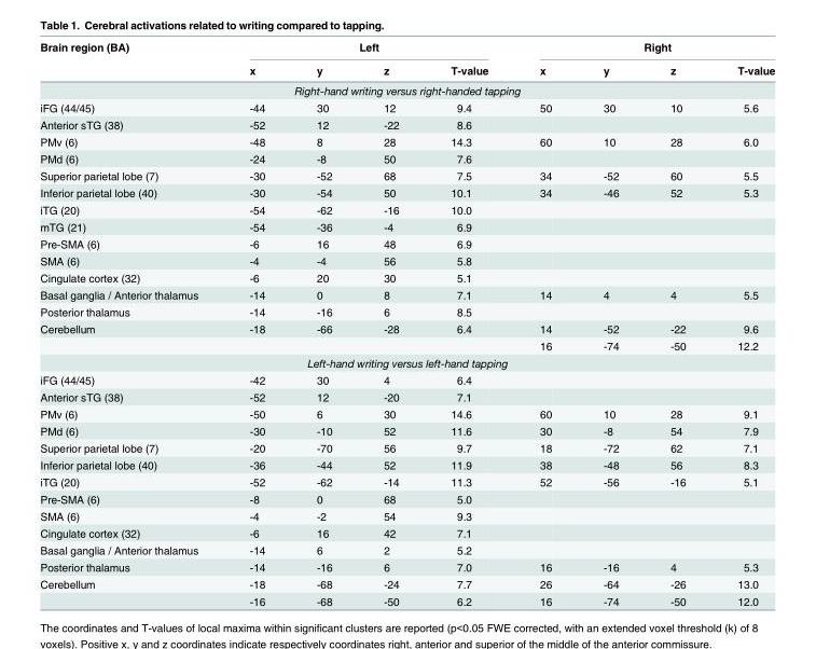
<table><thead><tr><td rowspan="2">Brain region (BA)</td><td colspan="4">Left</td><td colspan="4">Right</td></tr><tr><td>x</td><td>y</td><td>z</td><td>T-value</td><td>x</td><td>y</td><td>z</td><td>T-value</td></tr></thead><tbody><tr><td colspan="9">Right-hand writing versus right-handed tapping</td></tr><tr><td>iFG (44/45)</td><td>-44</td><td>30</td><td>12</td><td>9.4</td><td>50</td><td>30</td><td>10</td><td>5.6</td></tr><tr><td>Anterior sTG (38)</td><td>-52</td><td>12</td><td>-22</td><td>8.6</td><td></td><td></td><td></td><td></td></tr><tr><td>PMv (6)</td><td>-48</td><td>8</td><td>28</td><td>14.3</td><td>60</td><td>10</td><td>28</td><td>6.0</td></tr><tr><td>PMd (6)</td><td>-24</td><td>-8</td><td>50</td><td>7.6</td><td></td><td></td><td></td><td></td></tr><tr><td>Superior parietal lobe (7)</td><td>-30</td><td>-52</td><td>68</td><td>7.5</td><td>34</td><td>-52</td><td>60</td><td>5.5</td></tr><tr><td>Inferior parietal lobe (40)</td><td>-30</td><td>-54</td><td>50</td><td>10.1</td><td>34</td><td>-46</td><td>52</td><td>5.3</td></tr><tr><td>iTG (20)</td><td>-54</td><td>-62</td><td>-16</td><td>10.0</td><td></td><td></td><td></td><td></td></tr><tr><td>mTG (21)</td><td>-54</td><td>-36</td><td>-4</td><td>6.9</td><td></td><td></td><td></td><td></td></tr><tr><td>Pre-SMA (6)</td><td>-6</td><td>16</td><td>48</td><td>6.9</td><td></td><td></td><td></td><td></td></tr><tr><td>SMA (6)</td><td>-4</td><td>-4</td><td>56</td><td>5.8</td><td></td><td></td><td></td><td></td></tr><tr><td>Cingulate cortex (32)</td><td>-6</td><td>20</td><td>30</td><td>5.1</td><td></td><td></td><td></td><td></td></tr><tr><td>Basal ganglia / Anterior thalamus</td><td>-14</td><td>0</td><td>8</td><td>7.1</td><td>14</td><td>4</td><td>4</td><td>5.5</td></tr><tr><td>Posterior thalamus</td><td>-14</td><td>-16</td><td>6</td><td>8.5</td><td></td><td></td><td></td><td></td></tr><tr><td rowspan="2">Cerebellum</td><td>-18</td><td>-66</td><td>-28</td><td>6.4</td><td>14</td><td>-52</td><td>-22</td><td>9.6</td></tr><tr><td></td><td></td><td></td><td></td><td>16</td><td>-74</td><td>-50</td><td>12.2</td></tr><tr><td colspan="9">Left-hand writing versus left-hand tapping</td></tr><tr><td>iFG (44/45)</td><td>-42</td><td>30</td><td>4</td><td>6.4</td><td></td><td></td><td></td><td></td></tr><tr><td>Anterior sTG (38)</td><td>-52</td><td>12</td><td>-20</td><td>7.1</td><td></td><td></td><td></td><td></td></tr><tr><td>PMv (6)</td><td>-50</td><td>6</td><td>30</td><td>14.6</td><td>60</td><td>10</td><td>28</td><td>9.1</td></tr><tr><td>PMd (6)</td><td>-30</td><td>-10</td><td>52</td><td>11.6</td><td>30</td><td>-8</td><td>54</td><td>7.9</td></tr><tr><td>Superior parietal lobe (7)</td><td>-20</td><td>-70</td><td>56</td><td>9.7</td><td>18</td><td>-72</td><td>62</td><td>7.1</td></tr><tr><td>Inferior parietal lobe (40)</td><td>-36</td><td>-44</td><td>52</td><td>11.9</td><td>38</td><td>-48</td><td>56</td><td>8.3</td></tr><tr><td>iTG (20)</td><td>-52</td><td>-62</td><td>-14</td><td>11.3</td><td>52</td><td>-56</td><td>-16</td><td>5.1</td></tr><tr><td>Pre-SMA (6)</td><td>-8</td><td>0</td><td>68</td><td>5.0</td><td></td><td></td><td></td><td></td></tr><tr><td>SMA (6)</td><td>-4</td><td>-2</td><td>54</td><td>9.3</td><td></td><td></td><td></td><td></td></tr><tr><td>Cingulate cortex (32)</td><td>-6</td><td>16</td><td>42</td><td>7.1</td><td></td><td></td><td></td><td></td></tr><tr><td>Basal ganglia / Anterior thalamus</td><td>-14</td><td>6</td><td>2</td><td>5.2</td><td></td><td></td><td></td><td></td></tr><tr><td>Posterior thalamus</td><td>-14</td><td>-16</td><td>6</td><td>7.0</td><td>16</td><td>-16</td><td>4</td><td>5.3</td></tr><tr><td rowspan="2">Cerebellum</td><td>-18</td><td>-68</td><td>-24</td><td>7.7</td><td>26</td><td>-64</td><td>-26</td><td>13.0</td></tr><tr><td>-16</td><td>-68</td><td>-50</td><td>6.2</td><td>16</td><td>-74</td><td>-50</td><td>12.0</td></tr></tbody></table>